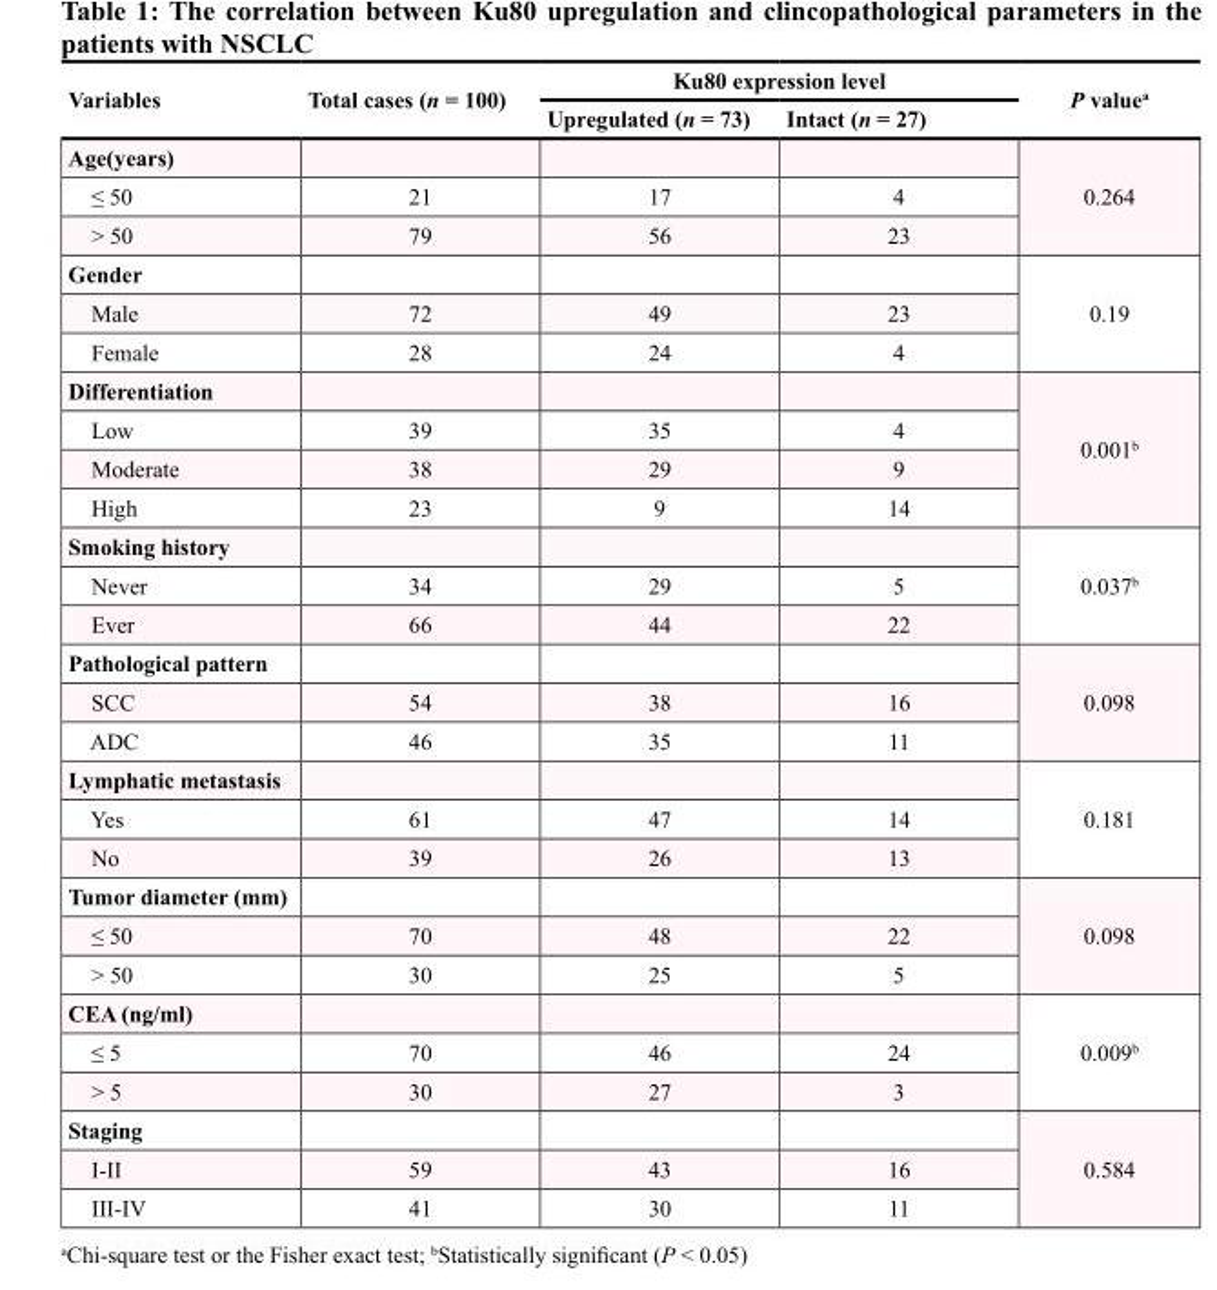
<table><thead><tr><td rowspan="2">Variables</td><td rowspan="2">Total cases (n = 100)</td><td colspan="2">Ku80 expression level</td><td rowspan="2">P value<sup>a</sup></td></tr><tr><td>Upregulated (n = 73)</td><td>Intact (n = 27)</td></tr></thead><tbody><tr><td colspan="4">Age(years)</td><td rowspan="3">0.264</td></tr><tr><td>≤ 50</td><td>21</td><td>17</td><td>4</td></tr><tr><td>&gt; 50</td><td>79</td><td>56</td><td>23</td></tr><tr><td colspan="4">Gender</td><td rowspan="3">0.19</td></tr><tr><td>Male</td><td>72</td><td>49</td><td>23</td></tr><tr><td>Female</td><td>28</td><td>24</td><td>4</td></tr><tr><td colspan="4">Differentiation</td><td rowspan="4">0.001<sup>b</sup></td></tr><tr><td>Low</td><td>39</td><td>35</td><td>4</td></tr><tr><td>Moderate</td><td>38</td><td>29</td><td>9</td></tr><tr><td>High</td><td>23</td><td>9</td><td>14</td></tr><tr><td colspan="4">Smoking history</td><td rowspan="3">0.037<sup>b</sup></td></tr><tr><td>Never</td><td>34</td><td>29</td><td>5</td></tr><tr><td>Ever</td><td>66</td><td>44</td><td>22</td></tr><tr><td colspan="4">Pathological pattern</td><td rowspan="3">0.098</td></tr><tr><td>SCC</td><td>54</td><td>38</td><td>16</td></tr><tr><td>ADC</td><td>46</td><td>35</td><td>11</td></tr><tr><td colspan="4">Lymphatic metastasis</td><td rowspan="3">0.181</td></tr><tr><td>Yes</td><td>61</td><td>47</td><td>14</td></tr><tr><td>No</td><td>39</td><td>26</td><td>13</td></tr><tr><td colspan="4">Tumor diameter (mm)</td><td rowspan="3">0.098</td></tr><tr><td>≤ 50</td><td>70</td><td>48</td><td>22</td></tr><tr><td>&gt; 50</td><td>30</td><td>25</td><td>5</td></tr><tr><td colspan="4">CEA (ng/ml)</td><td rowspan="3">0.009<sup>b</sup></td></tr><tr><td>≤ 5</td><td>70</td><td>46</td><td>24</td></tr><tr><td>&gt; 5</td><td>30</td><td>27</td><td>3</td></tr><tr><td colspan="4">Staging</td><td rowspan="3">0.584</td></tr><tr><td>I-II</td><td>59</td><td>43</td><td>16</td></tr><tr><td>III-IV</td><td>41</td><td>30</td><td>11</td></tr></tbody></table>